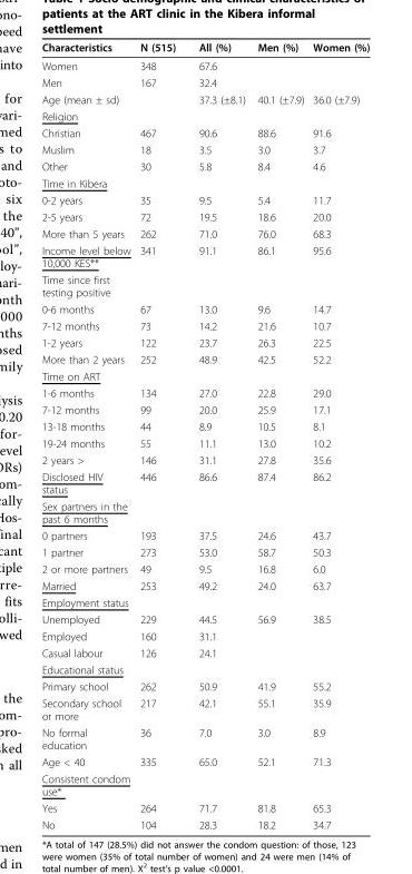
<table><thead><tr><td>Characteristics</td><td>N (515)</td><td>All (%)</td><td>Men (%)</td><td>Women (%)</td></tr></thead><tbody><tr><td>Women</td><td>348</td><td>67.6</td><td></td><td></td></tr><tr><td>Men</td><td>167</td><td>32.4</td><td></td><td></td></tr><tr><td>Age (mean ± sd)</td><td></td><td>37.3 (±8.1)</td><td>40.1 (±7.9)</td><td>36.0 (±7.9)</td></tr><tr><td colspan="5">Religion</td></tr><tr><td>Christian</td><td>467</td><td>90.6</td><td>88.6</td><td>91.6</td></tr><tr><td>Muslim</td><td>18</td><td>3.5</td><td>3.0</td><td>3.7</td></tr><tr><td>Other</td><td>30</td><td>5.8</td><td>8.4</td><td>4.6</td></tr><tr><td colspan="5">Time in Kibera</td></tr><tr><td>0-2 years</td><td>35</td><td>9.5</td><td>5.4</td><td>11.7</td></tr><tr><td>2-5 years</td><td>72</td><td>19.5</td><td>18.6</td><td>20.0</td></tr><tr><td>More than 5 years</td><td>262</td><td>71.0</td><td>76.0</td><td>68.3</td></tr><tr><td>Income level below 10,000 KES**</td><td>341</td><td>91.1</td><td>86.1</td><td>95.6</td></tr><tr><td colspan="5">Time since first testing positive</td></tr><tr><td>0-6 months</td><td>67</td><td>13.0</td><td>9.6</td><td>14.7</td></tr><tr><td>7-12 months</td><td>73</td><td>14.2</td><td>21.6</td><td>10.7</td></tr><tr><td>1-2 years</td><td>122</td><td>23.7</td><td>26.3</td><td>22.5</td></tr><tr><td>More than 2 years</td><td>252</td><td>48.9</td><td>42.5</td><td>52.2</td></tr><tr><td colspan="5">Time on ART</td></tr><tr><td>1-6 months</td><td>134</td><td>27.0</td><td>22.8</td><td>29.0</td></tr><tr><td>7-12 months</td><td>99</td><td>20.0</td><td>25.9</td><td>17.1</td></tr><tr><td>13-18 months</td><td>44</td><td>8.9</td><td>10.5</td><td>8.1</td></tr><tr><td>19-24 months</td><td>55</td><td>11.1</td><td>13.0</td><td>10.2</td></tr><tr><td>2 years &gt;</td><td>146</td><td>31.1</td><td>27.8</td><td>35.6</td></tr><tr><td>Disclosed HIV status</td><td>446</td><td>86.6</td><td>87.4</td><td>86.2</td></tr><tr><td colspan="5">Sex partners in the past 6 months</td></tr><tr><td>0 partners</td><td>193</td><td>37.5</td><td>24.6</td><td>43.7</td></tr><tr><td>1 partner</td><td>273</td><td>53.0</td><td>58.7</td><td>50.3</td></tr><tr><td>2 or more partners</td><td>49</td><td>9.5</td><td>16.8</td><td>6.0</td></tr><tr><td>Married</td><td>253</td><td>49.2</td><td>24.0</td><td>63.7</td></tr><tr><td colspan="5">Employment status</td></tr><tr><td>Unemployed</td><td>229</td><td>44.5</td><td>56.9</td><td>38.5</td></tr><tr><td>Employed</td><td>160</td><td>31.1</td><td></td><td></td></tr><tr><td>Casual labour</td><td>126</td><td>24.1</td><td></td><td></td></tr><tr><td colspan="5">Educational status</td></tr><tr><td>Primary school</td><td>262</td><td>50.9</td><td>41.9</td><td>55.2</td></tr><tr><td>Secondary school or more</td><td>217</td><td>42.1</td><td>55.1</td><td>35.9</td></tr><tr><td>No formal education</td><td>36</td><td>7.0</td><td>3.0</td><td>8.9</td></tr><tr><td>Age &lt; 40</td><td>335</td><td>65.0</td><td>52.1</td><td>71.3</td></tr><tr><td colspan="5">Consistent condom use*</td></tr><tr><td>Yes</td><td>264</td><td>71.7</td><td>81.8</td><td>65.3</td></tr><tr><td>No</td><td>104</td><td>28.3</td><td>18.2</td><td>34.7</td></tr></tbody></table>